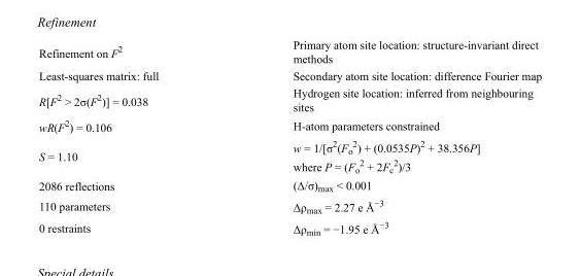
<table><tbody><tr><td>Refinement on F<sup>2</sup></td><td>Primary atom site location: structure-invariant direct methods</td></tr><tr><td>Least-squares matrix: full</td><td>Secondary atom site location: difference Fourier map</td></tr><tr><td>R[F<sup>2</sup> &gt; 2σ(F<sup>2</sup>)] = 0.038</td><td>Hydrogen site location: inferred from neighbouring sites</td></tr><tr><td>wR(F<sup>2</sup>) = 0.106</td><td>H-atom parameters constrained</td></tr><tr><td>S = 1.10</td><td>w = 1/[σ<sup>2</sup>(F<sub>o</sub> <sup>2</sup>) + (0.0535P)<sup>2</sup> + 38.356P] where P = (F<sub>o</sub> <sup>2</sup> + 2F<sub>c</sub> <sup>2</sup>)/3</td></tr><tr><td>2086 reflections</td><td>(Δ/σ)<sub>max</sub> &lt; 0.001</td></tr><tr><td>110 parameters</td><td>Δρ<sub>max</sub> = 2.27 e Å<sup>−3</sup></td></tr><tr><td>0 restraints</td><td>Δρ<sub>min</sub> = −1.95 e Å<sup>−3</sup></td></tr></tbody></table>